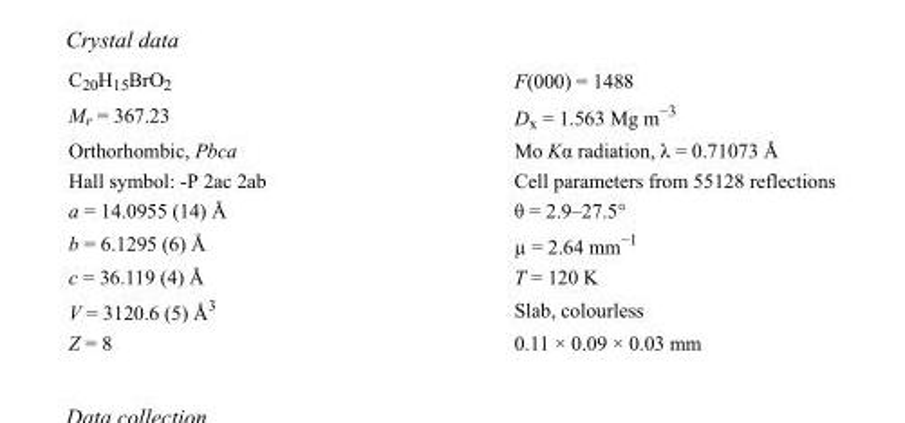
<table><tbody><tr><td>C<sub>20</sub>H<sub>15</sub>BrO<sub>2</sub></td><td>F(000) = 1488</td></tr><tr><td>M<sub>r</sub> = 367.23</td><td>D<sub>x</sub> = 1.563 Mg m<sup>−3</sup></td></tr><tr><td>Orthorhombic, Pbca</td><td>Mo Kα radiation, λ = 0.71073 Å</td></tr><tr><td>Hall symbol: -P 2ac 2ab</td><td>Cell parameters from 55128 reflections</td></tr><tr><td>a = 14.0955 (14) Å</td><td>θ = 2.9–27.5°</td></tr><tr><td>b = 6.1295 (6) Å</td><td>µ = 2.64 mm<sup>−1</sup></td></tr><tr><td>c = 36.119 (4) Å</td><td>T = 120 K</td></tr><tr><td>V = 3120.6 (5) Å<sup>3</sup></td><td>Slab, colourless</td></tr><tr><td>Z = 8</td><td>0.11 × 0.09 × 0.03 mm</td></tr></tbody></table>